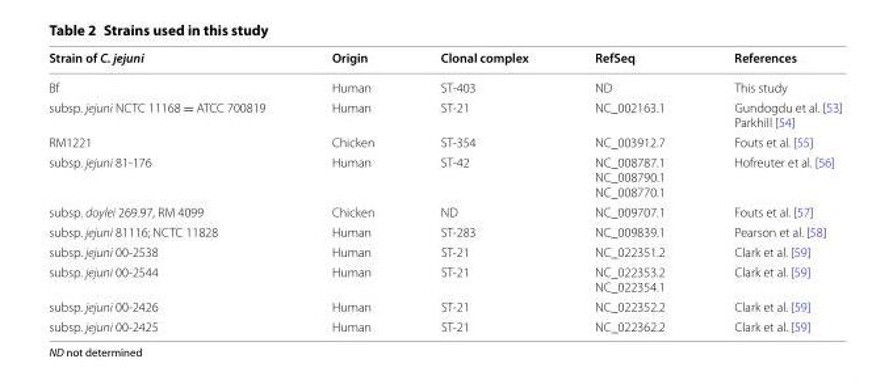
<table><thead><tr><td>Strain of C. jejuni</td><td>Origin</td><td>Clonal complex</td><td>RefSeq</td><td>References</td></tr></thead><tbody><tr><td>Bf</td><td>Human</td><td>ST‑403</td><td>ND</td><td>This study</td></tr><tr><td>subsp. jejuni NCTC 11168 = ATCC 700819</td><td>Human</td><td>ST‑21</td><td>NC_002163.1</td><td>Gundogdu et al. [53] Parkhill [54]</td></tr><tr><td>RM1221</td><td>Chicken</td><td>ST‑354</td><td>NC_003912.7</td><td>Fouts et al. [55]</td></tr><tr><td>subsp. jejuni 81‑176</td><td>Human</td><td>ST‑42</td><td>NC_008787.1 NC_008790.1 NC_008770.1</td><td>Hofreuter et al. [56]</td></tr><tr><td>subsp. doylei 269.97, RM 4099</td><td>Chicken</td><td>ND</td><td>NC_009707.1</td><td>Fouts et al. [57]</td></tr><tr><td>subsp. jejuni 81116; NCTC 11828</td><td>Human</td><td>ST‑283</td><td>NC_009839.1</td><td>Pearson et al. [58]</td></tr><tr><td>subsp. jejuni 00‑2538</td><td>Human</td><td>ST‑21</td><td>NC_022351.2</td><td>Clark et al. [59]</td></tr><tr><td>subsp. jejuni 00‑2544</td><td>Human</td><td>ST‑21</td><td>NC_022353.2 NC_022354.1</td><td>Clark et al. [59]</td></tr><tr><td>subsp. jejuni 00‑2426</td><td>Human</td><td>ST‑21</td><td>NC_022352.2</td><td>Clark et al. [59]</td></tr><tr><td>subsp. jejuni 00‑2425</td><td>Human</td><td>ST‑21</td><td>NC_022362.2</td><td>Clark et al. [59]</td></tr></tbody></table>